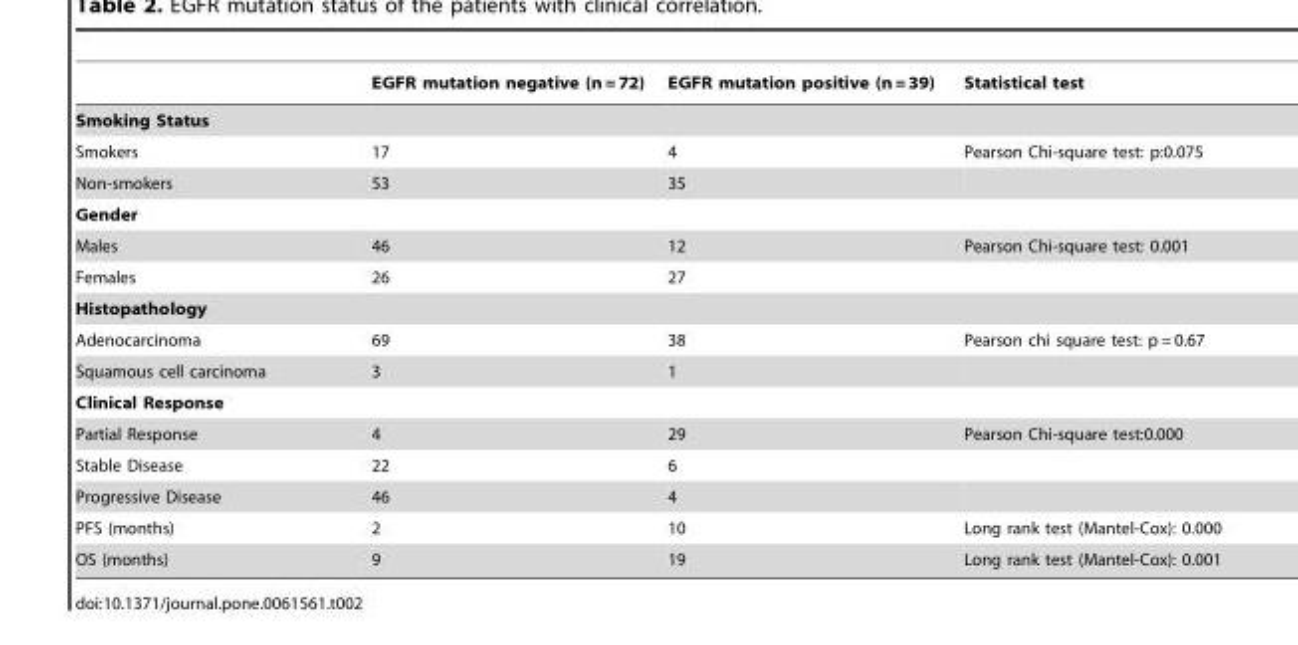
<table><thead><tr><td></td><td>EGFR mutation negative (n = 72)</td><td>EGFR mutation positive (n = 39)</td><td>Statistical test</td></tr></thead><tbody><tr><td colspan="4">Smoking Status</td></tr><tr><td>Smokers</td><td>17</td><td>4</td><td>Pearson Chi-square test: p:0.075</td></tr><tr><td>Non-smokers</td><td>53</td><td>35</td><td></td></tr><tr><td colspan="4">Gender</td></tr><tr><td>Males</td><td>46</td><td>12</td><td>Pearson Chi-square test: 0.001</td></tr><tr><td>Females</td><td>26</td><td>27</td><td></td></tr><tr><td colspan="4">Histopathology</td></tr><tr><td>Adenocarcinoma</td><td>69</td><td>38</td><td>Pearson chi square test: p = 0.67</td></tr><tr><td>Squamous cell carcinoma</td><td>3</td><td>1</td><td></td></tr><tr><td colspan="4">Clinical Response</td></tr><tr><td>Partial Response</td><td>4</td><td>29</td><td>Pearson Chi-square test:0.000</td></tr><tr><td>Stable Disease</td><td>22</td><td>6</td><td></td></tr><tr><td>Progressive Disease</td><td>46</td><td>4</td><td></td></tr><tr><td>PFS (months)</td><td>2</td><td>10</td><td>Long rank test (Mantel-Cox): 0.000</td></tr><tr><td>OS (months)</td><td>9</td><td>19</td><td>Long rank test (Mantel-Cox): 0.001</td></tr></tbody></table>